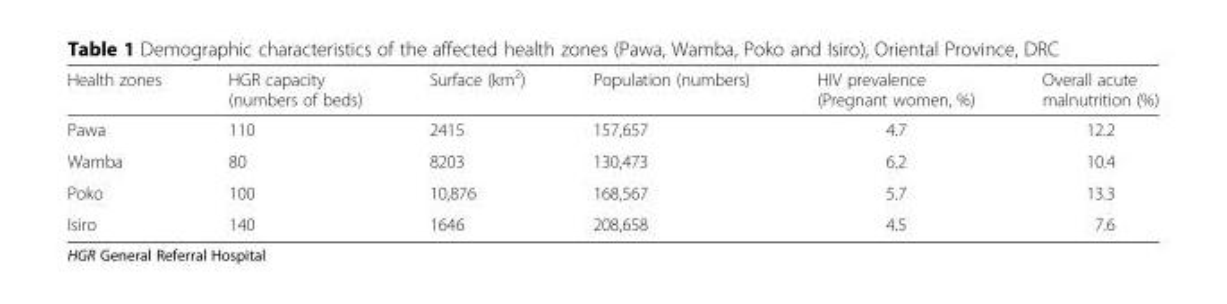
<table><thead><tr><td>Health zones</td><td>HGR capacity (numbers of beds)</td><td>Surface (km<sup>2</sup>)</td><td>Population (numbers)</td><td>HIV prevalence (Pregnant women, %)</td><td>Overall acute malnutrition (%)</td></tr></thead><tbody><tr><td>Pawa</td><td>110</td><td>2415</td><td>157,657</td><td>4.7</td><td>12.2</td></tr><tr><td>Wamba</td><td>80</td><td>8203</td><td>130,473</td><td>6.2</td><td>10.4</td></tr><tr><td>Poko</td><td>100</td><td>10,876</td><td>168,567</td><td>5.7</td><td>13.3</td></tr><tr><td>Isiro</td><td>140</td><td>1646</td><td>208,658</td><td>4.5</td><td>7.6</td></tr></tbody></table>